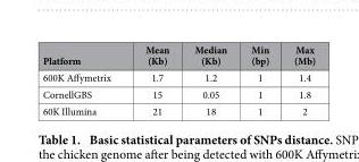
<table><thead><tr><td>Platform</td><td>Mean (Kb)</td><td>Median (Kb)</td><td>Min (bp)</td><td>Max (Mb)</td></tr></thead><tbody><tr><td>600K Affymetrix</td><td>1.7</td><td>1.2</td><td>1</td><td>1.4</td></tr><tr><td>CornellGBS</td><td>15</td><td>0.05</td><td>1</td><td>1.8</td></tr><tr><td>60K Illumina</td><td>21</td><td>18</td><td>1</td><td>2</td></tr></tbody></table>